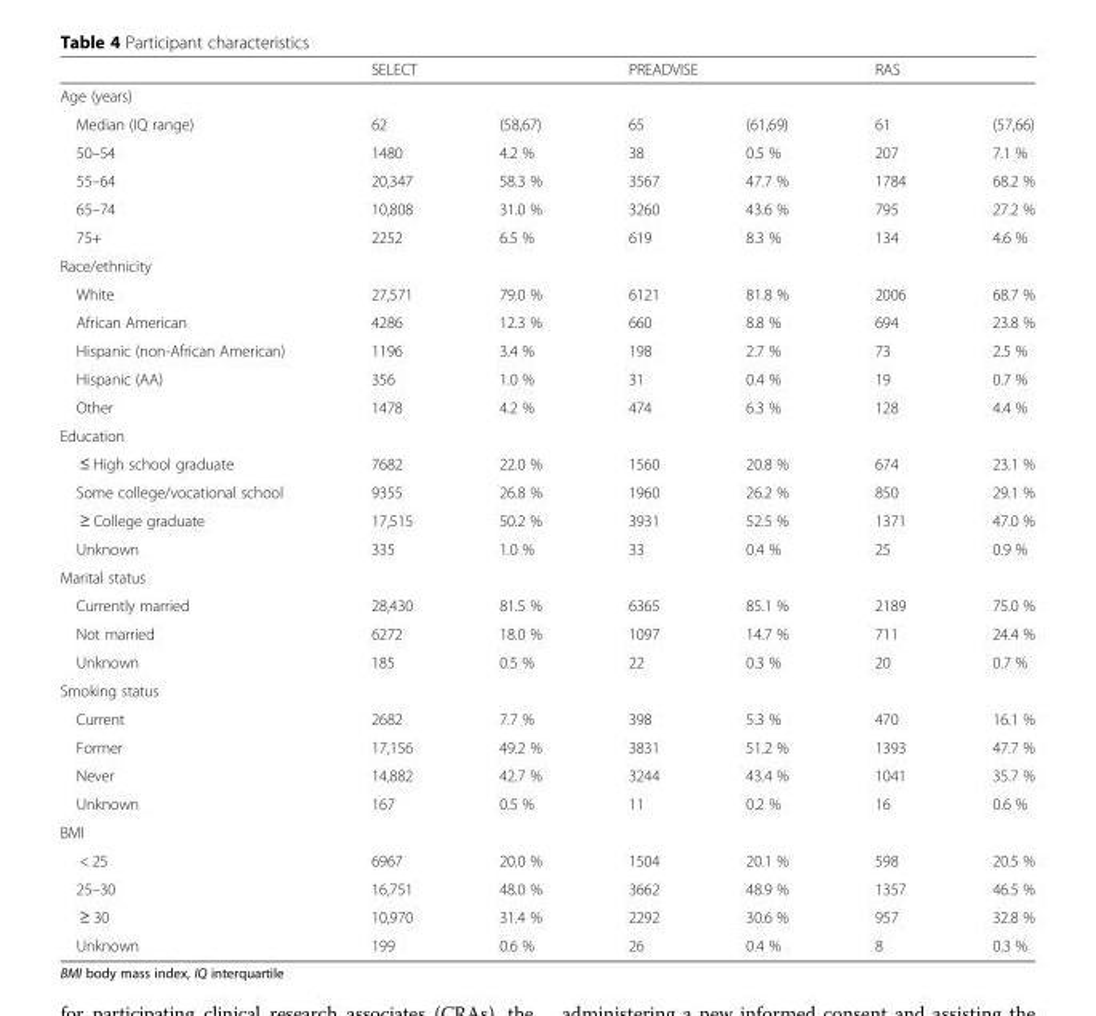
<table><thead><tr><td></td><td colspan="2">SELECT</td><td colspan="2">PREADVISE</td><td colspan="2">RAS</td></tr><tr><td colspan="7">Age (years)</td></tr><tr><td>Median (IQ range)</td><td>62</td><td>(58,67)</td><td>65</td><td>(61,69)</td><td>61</td><td>(57,66)</td></tr></thead><tbody><tr><td>50–54</td><td>1480</td><td>4.2 %</td><td>38</td><td>0.5 %</td><td>207</td><td>7.1 %</td></tr><tr><td>55–64</td><td>20,347</td><td>58.3 %</td><td>3567</td><td>47.7 %</td><td>1784</td><td>68.2 %</td></tr><tr><td>65–74</td><td>10,808</td><td>31.0 %</td><td>3260</td><td>43.6 %</td><td>795</td><td>27.2 %</td></tr><tr><td>75+</td><td>2252</td><td>6.5 %</td><td>619</td><td>8.3 %</td><td>134</td><td>4.6 %</td></tr><tr><td colspan="7">Race/ethnicity</td></tr><tr><td>White</td><td>27,571</td><td>79.0 %</td><td>6121</td><td>81.8 %</td><td>2006</td><td>68.7 %</td></tr><tr><td>African American</td><td>4286</td><td>12.3 %</td><td>660</td><td>8.8 %</td><td>694</td><td>23.8 %</td></tr><tr><td>Hispanic (non-African American)</td><td>1196</td><td>3.4 %</td><td>198</td><td>2.7 %</td><td>73</td><td>2.5 %</td></tr><tr><td>Hispanic (AA)</td><td>356</td><td>1.0 %</td><td>31</td><td>0.4 %</td><td>19</td><td>0.7 %</td></tr><tr><td>Other</td><td>1478</td><td>4.2 %</td><td>474</td><td>6.3 %</td><td>128</td><td>4.4 %</td></tr><tr><td colspan="7">Education</td></tr><tr><td>≤ High school graduate</td><td>7682</td><td>22.0 %</td><td>1560</td><td>20.8 %</td><td>674</td><td>23.1 %</td></tr><tr><td>Some college/vocational school</td><td>9355</td><td>26.8 %</td><td>1960</td><td>26.2 %</td><td>850</td><td>29.1 %</td></tr><tr><td>≥ College graduate</td><td>17,515</td><td>50.2 %</td><td>3931</td><td>52.5 %</td><td>1371</td><td>47.0 %</td></tr><tr><td>Unknown</td><td>335</td><td>1.0 %</td><td>33</td><td>0.4 %</td><td>25</td><td>0.9 %</td></tr><tr><td colspan="7">Marital status</td></tr><tr><td>Currently married</td><td>28,430</td><td>81.5 %</td><td>6365</td><td>85.1 %</td><td>2189</td><td>75.0 %</td></tr><tr><td>Not married</td><td>6272</td><td>18.0 %</td><td>1097</td><td>14.7 %</td><td>711</td><td>24.4 %</td></tr><tr><td>Unknown</td><td>185</td><td>0.5 %</td><td>22</td><td>0.3 %</td><td>20</td><td>0.7 %</td></tr><tr><td colspan="7">Smoking status</td></tr><tr><td>Current</td><td>2682</td><td>7.7 %</td><td>398</td><td>5.3 %</td><td>470</td><td>16.1 %</td></tr><tr><td>Former</td><td>17,156</td><td>49.2 %</td><td>3831</td><td>51.2 %</td><td>1393</td><td>47.7 %</td></tr><tr><td>Never</td><td>14,882</td><td>42.7 %</td><td>3244</td><td>43.4 %</td><td>1041</td><td>35.7 %</td></tr><tr><td>Unknown</td><td>167</td><td>0.5 %</td><td>11</td><td>0.2 %</td><td>16</td><td>0.6 %</td></tr><tr><td colspan="7">BMI</td></tr><tr><td>&lt; 25</td><td>6967</td><td>20.0 %</td><td>1504</td><td>20.1 %</td><td>598</td><td>20.5 %</td></tr><tr><td>25–30</td><td>16,751</td><td>48.0 %</td><td>3662</td><td>48.9 %</td><td>1357</td><td>46.5 %</td></tr><tr><td>≥ 30</td><td>10,970</td><td>31.4 %</td><td>2292</td><td>30.6 %</td><td>957</td><td>32.8 %</td></tr><tr><td>Unknown</td><td>199</td><td>0.6 %</td><td>26</td><td>0.4 %</td><td>8</td><td>0.3 %</td></tr></tbody></table>